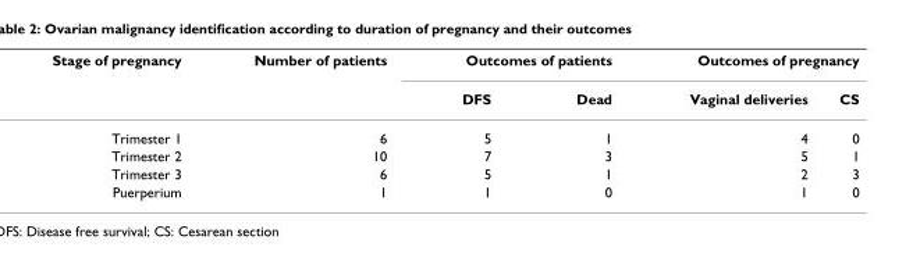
<table><thead><tr><td rowspan="2">Stage of pregnancy</td><td rowspan="2">Number of patients</td><td colspan="2">Outcomes of patients</td><td colspan="2">Outcomes of pregnancy</td></tr><tr><td>DFS</td><td>Dead</td><td>Vaginal deliveries</td><td>CS</td></tr></thead><tbody><tr><td>Trimester 1</td><td>6</td><td>5</td><td>1</td><td>4</td><td>0</td></tr><tr><td>Trimester 2</td><td>10</td><td>7</td><td>3</td><td>5</td><td>1</td></tr><tr><td>Trimester 3</td><td>6</td><td>5</td><td>1</td><td>2</td><td>3</td></tr><tr><td>Puerperium</td><td>1</td><td>1</td><td>0</td><td>1</td><td>0</td></tr></tbody></table>